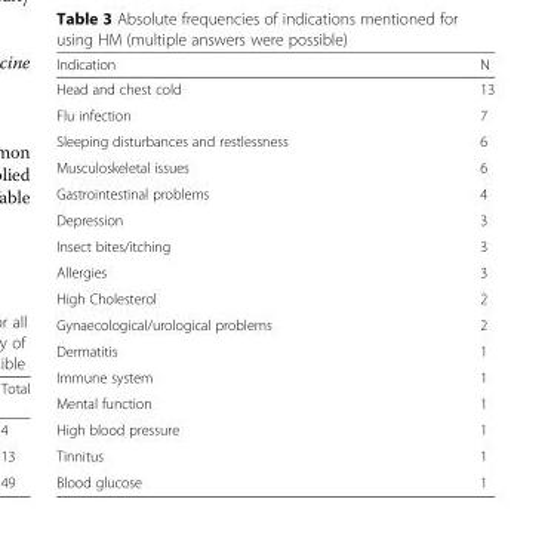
<table><thead><tr><td>Indication</td><td>N</td></tr></thead><tbody><tr><td>Head and chest cold</td><td>13</td></tr><tr><td>Flu infection</td><td>7</td></tr><tr><td>Sleeping disturbances and restlessness</td><td>6</td></tr><tr><td>Musculoskeletal issues</td><td>6</td></tr><tr><td>Gastrointestinal problems</td><td>4</td></tr><tr><td>Depression</td><td>3</td></tr><tr><td>Insect bites/itching</td><td>3</td></tr><tr><td>Allergies</td><td>3</td></tr><tr><td>High Cholesterol</td><td>2</td></tr><tr><td>Gynaecological/urological problems</td><td>2</td></tr><tr><td>Dermatitis</td><td>1</td></tr><tr><td>Immune system</td><td>1</td></tr><tr><td>Mental function</td><td>1</td></tr><tr><td>High blood pressure</td><td>1</td></tr><tr><td>Tinnitus</td><td>1</td></tr><tr><td>Blood glucose</td><td>1</td></tr></tbody></table>